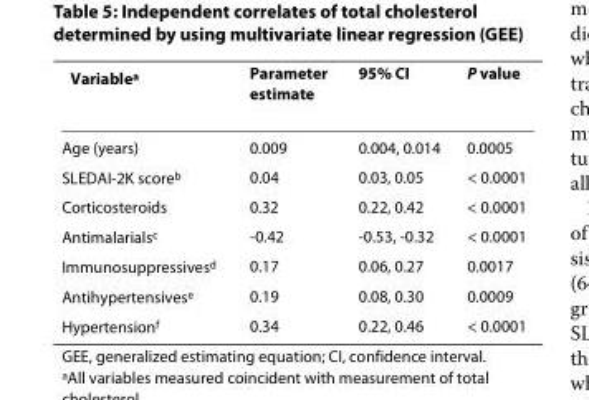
<table><thead><tr><td>Variable<sup>a</sup></td><td>Parameter estimate</td><td>95% CI</td><td>P value</td></tr></thead><tbody><tr><td>Age (years)</td><td>0.009</td><td>0.004, 0.014</td><td>0.0005</td></tr><tr><td>SLEDAI-2K score<sup>b</sup></td><td>0.04</td><td>0.03, 0.05</td><td>&lt; 0.0001</td></tr><tr><td>Corticosteroids</td><td>0.32</td><td>0.22, 0.42</td><td>&lt; 0.0001</td></tr><tr><td>Antimalarials<sup>c</sup></td><td>-0.42</td><td>-0.53, -0.32</td><td>&lt; 0.0001</td></tr><tr><td>Immunosuppressives<sup>d</sup></td><td>0.17</td><td>0.06, 0.27</td><td>0.0017</td></tr><tr><td>Antihypertensives<sup>e</sup></td><td>0.19</td><td>0.08, 0.30</td><td>0.0009</td></tr><tr><td>Hypertension<sup>f</sup></td><td>0.34</td><td>0.22, 0.46</td><td>&lt; 0.0001</td></tr></tbody></table>